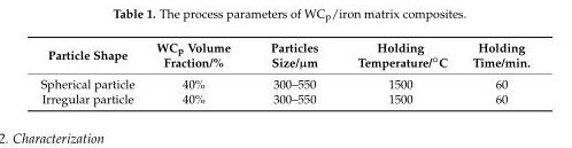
<table><thead><tr><td>Particle Shape</td><td>WC<sub>p</sub> Volume Fraction/%</td><td>Particles Size/µm</td><td>Holding Temperature/◦C</td><td>Holding Time/min.</td></tr></thead><tbody><tr><td>Spherical particle</td><td>40%</td><td>300–550</td><td>1500</td><td>60</td></tr><tr><td>Irregular particle</td><td>40%</td><td>300–550</td><td>1500</td><td>60</td></tr></tbody></table>